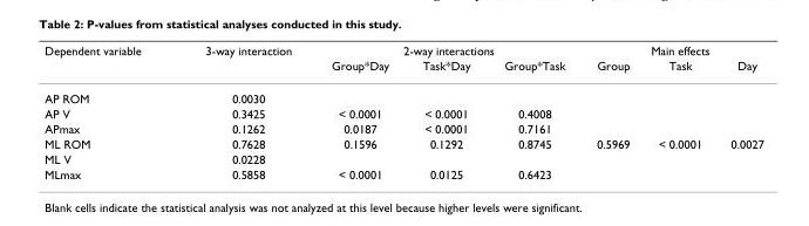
<table><thead><tr><td rowspan="2">Dependent variable</td><td rowspan="2">3-way interaction</td><td colspan="3">2-way interactions</td><td colspan="3">Main effects</td></tr><tr><td>Group*Day</td><td>Task*Day</td><td>Group*Task</td><td>Group</td><td>Task</td><td>Day</td></tr></thead><tbody><tr><td>AP ROM</td><td>0.0030</td><td></td><td></td><td></td><td></td><td></td><td></td></tr><tr><td>AP V</td><td>0.3425</td><td>&lt; 0.0001</td><td>&lt; 0.0001</td><td>0.4008</td><td></td><td></td><td></td></tr><tr><td>APmax</td><td>0.1262</td><td>0.0187</td><td>&lt; 0.0001</td><td>0.7161</td><td></td><td></td><td></td></tr><tr><td>ML ROM</td><td>0.7628</td><td>0.1596</td><td>0.1292</td><td>0.8745</td><td>0.5969</td><td>&lt; 0.0001</td><td>0.0027</td></tr><tr><td>ML V</td><td>0.0228</td><td></td><td></td><td></td><td></td><td></td><td></td></tr><tr><td>MLmax</td><td>0.5858</td><td>&lt; 0.0001</td><td>0.0125</td><td>0.6423</td><td></td><td></td><td></td></tr></tbody></table>